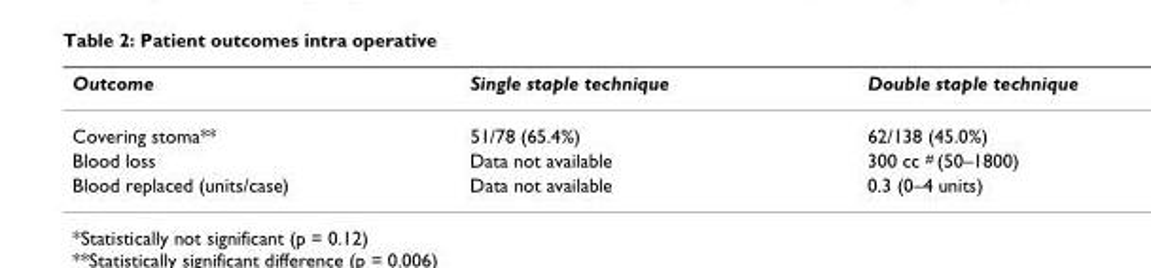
<table><thead><tr><td>Outcome</td><td>Single staple technique</td><td>Double staple technique</td></tr></thead><tbody><tr><td>Covering stoma**</td><td>51/78 (65.4%)</td><td>62/138 (45.0%)</td></tr><tr><td>Blood loss</td><td>Data not available</td><td>300 cc <sup>#</sup> (50–1800)</td></tr><tr><td>Blood replaced (units/case)</td><td>Data not available</td><td>0.3 (0–4 units)</td></tr></tbody></table>